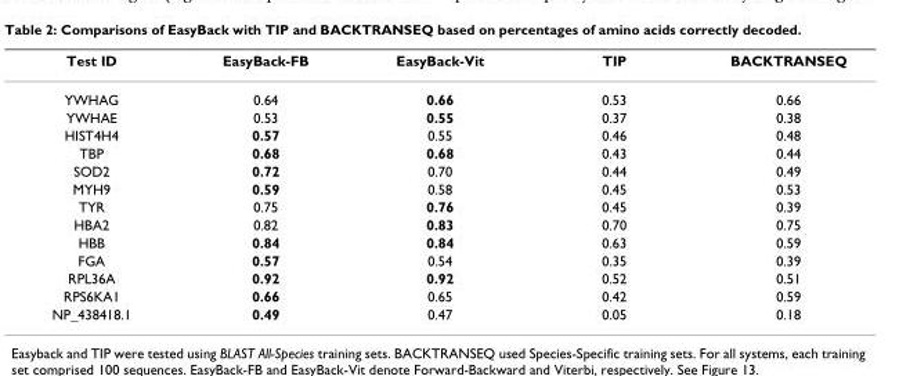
<table><thead><tr><td>Test ID</td><td>EasyBack-FB</td><td>EasyBack-Vit</td><td>TIP</td><td>BACKTRANSEQ</td></tr></thead><tbody><tr><td>YWHAG</td><td>0.64</td><td>0.66</td><td>0.53</td><td>0.66</td></tr><tr><td>YWHAE</td><td>0.53</td><td>0.55</td><td>0.37</td><td>0.38</td></tr><tr><td>HIST4H4</td><td>0.57</td><td>0.55</td><td>0.46</td><td>0.48</td></tr><tr><td>TBP</td><td>0.68</td><td>0.68</td><td>0.43</td><td>0.44</td></tr><tr><td>SOD2</td><td>0.72</td><td>0.70</td><td>0.44</td><td>0.49</td></tr><tr><td>MYH9</td><td>0.59</td><td>0.58</td><td>0.45</td><td>0.53</td></tr><tr><td>TYR</td><td>0.75</td><td>0.76</td><td>0.45</td><td>0.39</td></tr><tr><td>HBA2</td><td>0.82</td><td>0.83</td><td>0.70</td><td>0.75</td></tr><tr><td>HBB</td><td>0.84</td><td>0.84</td><td>0.63</td><td>0.59</td></tr><tr><td>FGA</td><td>0.57</td><td>0.54</td><td>0.35</td><td>0.39</td></tr><tr><td>RPL36A</td><td>0.92</td><td>0.92</td><td>0.52</td><td>0.51</td></tr><tr><td>RPS6KA1</td><td>0.66</td><td>0.65</td><td>0.42</td><td>0.59</td></tr><tr><td>NP_438418.1</td><td>0.49</td><td>0.47</td><td>0.05</td><td>0.18</td></tr></tbody></table>